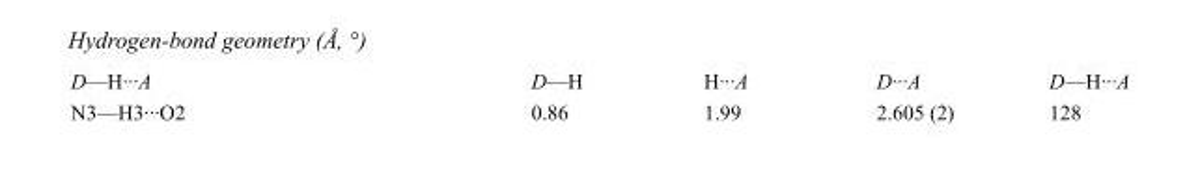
<table><tbody><tr><td>D—H···A</td><td>D—H</td><td>H···A</td><td>D···A</td><td>D—H···A</td></tr><tr><td>N3—H3···O2</td><td>0.86</td><td>1.99</td><td>2.605 (2)</td><td>128</td></tr></tbody></table>